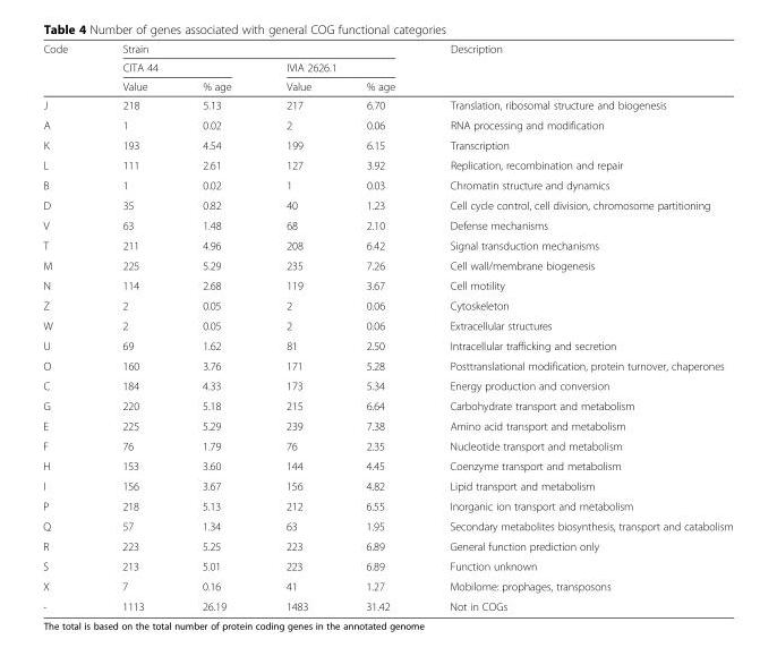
<table><thead><tr><td rowspan="3">Code</td><td colspan="4">Strain</td><td rowspan="3">Description</td></tr><tr><td colspan="2">CITA 44</td><td colspan="2">IVIA 2626.1</td></tr><tr><td>Value</td><td>% age</td><td>Value</td><td>% age</td></tr></thead><tbody><tr><td>J</td><td>218</td><td>5.13</td><td>217</td><td>6.70</td><td>Translation, ribosomal structure and biogenesis</td></tr><tr><td>A</td><td>1</td><td>0.02</td><td>2</td><td>0.06</td><td>RNA processing and modification</td></tr><tr><td>K</td><td>193</td><td>4.54</td><td>199</td><td>6.15</td><td>Transcription</td></tr><tr><td>L</td><td>111</td><td>2.61</td><td>127</td><td>3.92</td><td>Replication, recombination and repair</td></tr><tr><td>B</td><td>1</td><td>0.02</td><td>1</td><td>0.03</td><td>Chromatin structure and dynamics</td></tr><tr><td>D</td><td>35</td><td>0.82</td><td>40</td><td>1.23</td><td>Cell cycle control, cell division, chromosome partitioning</td></tr><tr><td>V</td><td>63</td><td>1.48</td><td>68</td><td>2.10</td><td>Defense mechanisms</td></tr><tr><td>T</td><td>211</td><td>4.96</td><td>208</td><td>6.42</td><td>Signal transduction mechanisms</td></tr><tr><td>M</td><td>225</td><td>5.29</td><td>235</td><td>7.26</td><td>Cell wall/membrane biogenesis</td></tr><tr><td>N</td><td>114</td><td>2.68</td><td>119</td><td>3.67</td><td>Cell motility</td></tr><tr><td>Z</td><td>2</td><td>0.05</td><td>2</td><td>0.06</td><td>Cytoskeleton</td></tr><tr><td>W</td><td>2</td><td>0.05</td><td>2</td><td>0.06</td><td>Extracellular structures</td></tr><tr><td>U</td><td>69</td><td>1.62</td><td>81</td><td>2.50</td><td>Intracellular trafficking and secretion</td></tr><tr><td>O</td><td>160</td><td>3.76</td><td>171</td><td>5.28</td><td>Posttranslational modification, protein turnover, chaperones</td></tr><tr><td>C</td><td>184</td><td>4.33</td><td>173</td><td>5.34</td><td>Energy production and conversion</td></tr><tr><td>G</td><td>220</td><td>5.18</td><td>215</td><td>6.64</td><td>Carbohydrate transport and metabolism</td></tr><tr><td>E</td><td>225</td><td>5.29</td><td>239</td><td>7.38</td><td>Amino acid transport and metabolism</td></tr><tr><td>F</td><td>76</td><td>1.79</td><td>76</td><td>2.35</td><td>Nucleotide transport and metabolism</td></tr><tr><td>H</td><td>153</td><td>3.60</td><td>144</td><td>4.45</td><td>Coenzyme transport and metabolism</td></tr><tr><td>I</td><td>156</td><td>3.67</td><td>156</td><td>4.82</td><td>Lipid transport and metabolism</td></tr><tr><td>P</td><td>218</td><td>5.13</td><td>212</td><td>6.55</td><td>Inorganic ion transport and metabolism</td></tr><tr><td>Q</td><td>57</td><td>1.34</td><td>63</td><td>1.95</td><td>Secondary metabolites biosynthesis, transport and catabolism</td></tr><tr><td>R</td><td>223</td><td>5.25</td><td>223</td><td>6.89</td><td>General function prediction only</td></tr><tr><td>S</td><td>213</td><td>5.01</td><td>223</td><td>6.89</td><td>Function unknown</td></tr><tr><td>X</td><td>7</td><td>0.16</td><td>41</td><td>1.27</td><td>Mobilome: prophages, transposons</td></tr><tr><td>-</td><td>1113</td><td>26.19</td><td>1483</td><td>31.42</td><td>Not in COGs</td></tr></tbody></table>